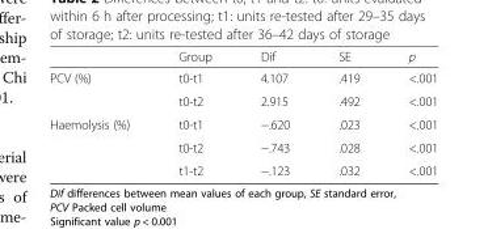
<table><thead><tr><td></td><td>Group</td><td>Dif</td><td>SE</td><td>p</td></tr></thead><tbody><tr><td rowspan="2">PCV (%)</td><td>t0-t1</td><td>4.107</td><td>.419</td><td>&lt;.001</td></tr><tr><td>t0-t2</td><td>2.915</td><td>.492</td><td>&lt;.001</td></tr><tr><td rowspan="3">Haemolysis (%)</td><td>t0-t1</td><td>−.620</td><td>.023</td><td>&lt;.001</td></tr><tr><td>t0-t2</td><td>−.743</td><td>.028</td><td>&lt;.001</td></tr><tr><td>t1-t2</td><td>−.123</td><td>.032</td><td>&lt;.001</td></tr></tbody></table>